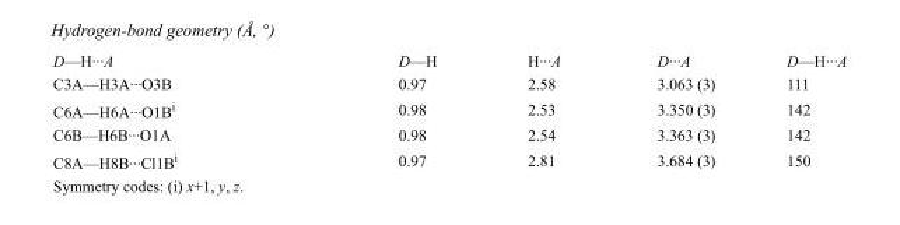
<table><tbody><tr><td>D—H···A</td><td>D—H</td><td>H···A</td><td>D···A</td><td>D—H···A</td></tr><tr><td>C3A—H3A···O3B</td><td>0.97</td><td>2.58</td><td>3.063 (3)</td><td>111</td></tr><tr><td>C6A—H6A···O1B<sup>i</sup></td><td>0.98</td><td>2.53</td><td>3.350 (3)</td><td>142</td></tr><tr><td>C6B—H6B···O1A</td><td>0.98</td><td>2.54</td><td>3.363 (3)</td><td>142</td></tr><tr><td>C8A—H8B···Cl1B<sup>i</sup></td><td>0.97</td><td>2.81</td><td>3.684 (3)</td><td>150</td></tr></tbody></table>